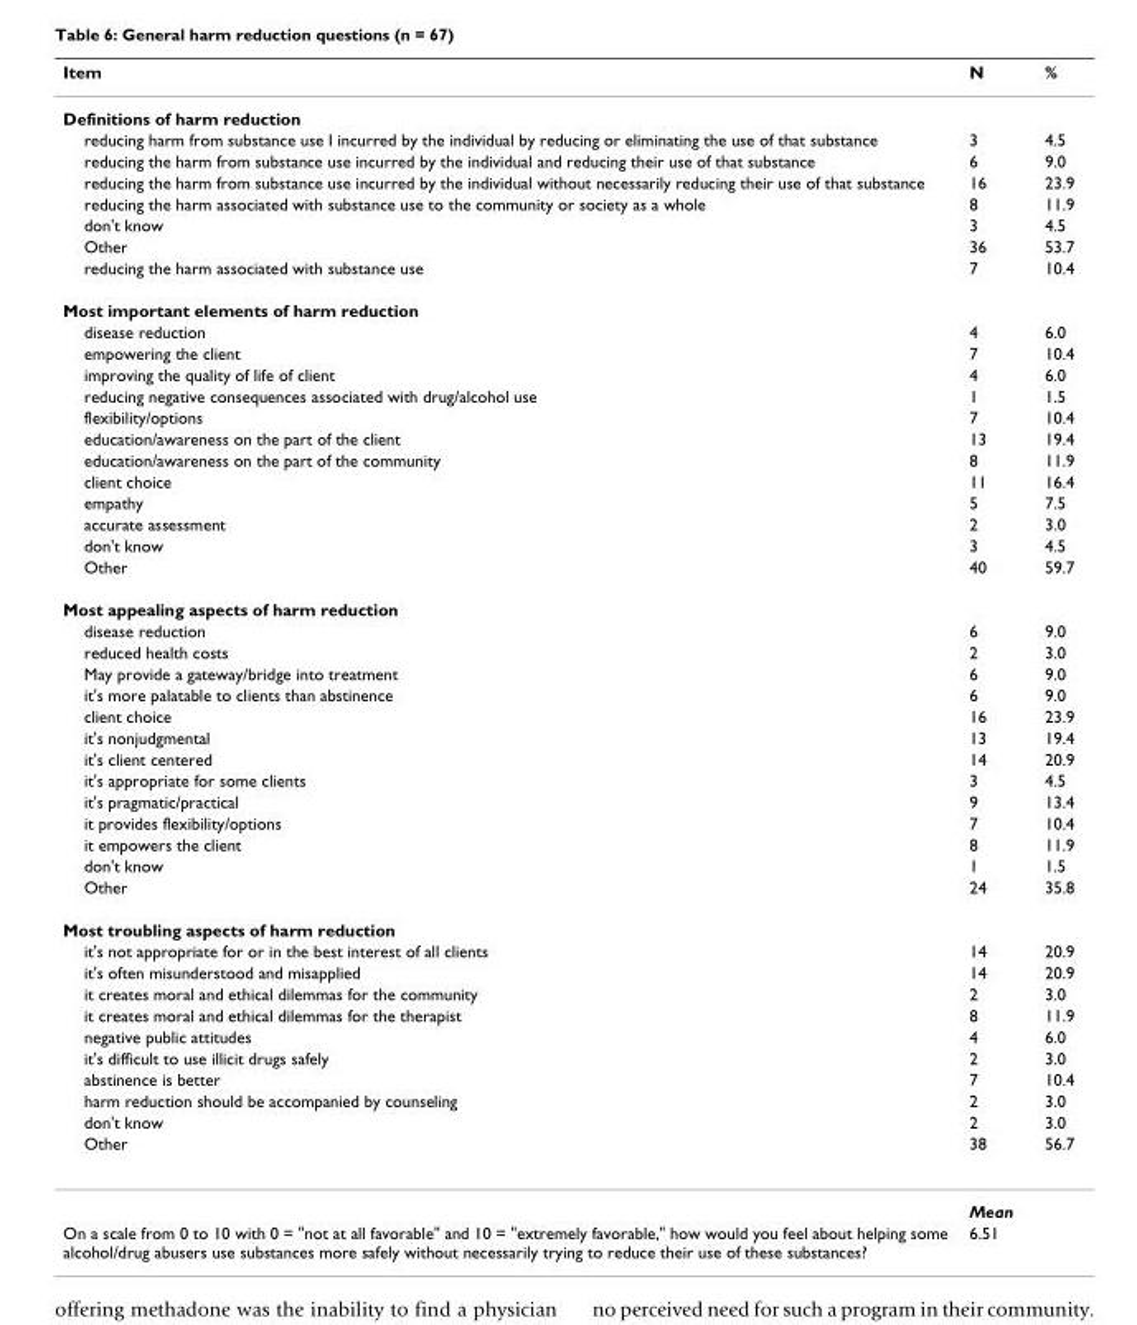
<table><thead><tr><td>Item</td><td>N</td><td>%</td></tr></thead><tbody><tr><td colspan="3">Definitions of harm reduction</td></tr><tr><td>reducing harm from substance use I incurred by the individual by reducing or eliminating the use of that substance</td><td>3</td><td>4.5</td></tr><tr><td>reducing the harm from substance use incurred by the individual and reducing their use of that substance</td><td>6</td><td>9.0</td></tr><tr><td>reducing the harm from substance use incurred by the individual without necessarily reducing their use of that substance</td><td>16</td><td>23.9</td></tr><tr><td>reducing the harm associated with substance use to the community or society as a whole</td><td>8</td><td>11.9</td></tr><tr><td>don&#x27;t know</td><td>3</td><td>4.5</td></tr><tr><td>Other</td><td>36</td><td>53.7</td></tr><tr><td>reducing the harm associated with substance use</td><td>7</td><td>10.4</td></tr><tr><td colspan="3">Most important elements of harm reduction</td></tr><tr><td>disease reduction</td><td>4</td><td>6.0</td></tr><tr><td>empowering the client</td><td>7</td><td>10.4</td></tr><tr><td>improving the quality of life of client</td><td>4</td><td>6.0</td></tr><tr><td>reducing negative consequences associated with drug/alcohol use</td><td>1</td><td>1.5</td></tr><tr><td>flexibility/options</td><td>7</td><td>10.4</td></tr><tr><td>education/awareness on the part of the client</td><td>13</td><td>19.4</td></tr><tr><td>education/awareness on the part of the community</td><td>8</td><td>11.9</td></tr><tr><td>client choice</td><td>11</td><td>16.4</td></tr><tr><td>empathy</td><td>5</td><td>7.5</td></tr><tr><td>accurate assessment</td><td>2</td><td>3.0</td></tr><tr><td>don&#x27;t know</td><td>3</td><td>4.5</td></tr><tr><td>Other</td><td>40</td><td>59.7</td></tr><tr><td colspan="3">Most appealing aspects of harm reduction</td></tr><tr><td>disease reduction</td><td>6</td><td>9.0</td></tr><tr><td>reduced health costs</td><td>2</td><td>3.0</td></tr><tr><td>May provide a gateway/bridge into treatment</td><td>6</td><td>9.0</td></tr><tr><td>it&#x27;s more palatable to clients than abstinence</td><td>6</td><td>9.0</td></tr><tr><td>client choice</td><td>16</td><td>23.9</td></tr><tr><td>it&#x27;s nonjudgmental</td><td>13</td><td>19.4</td></tr><tr><td>it&#x27;s client centered</td><td>14</td><td>20.9</td></tr><tr><td>it&#x27;s appropriate for some clients</td><td>3</td><td>4.5</td></tr><tr><td>it&#x27;s pragmatic/practical</td><td>9</td><td>13.4</td></tr><tr><td>it provides flexibility/options</td><td>7</td><td>10.4</td></tr><tr><td>it empowers the client</td><td>8</td><td>11.9</td></tr><tr><td>don&#x27;t know</td><td>1</td><td>1.5</td></tr><tr><td>Other</td><td>24</td><td>35.8</td></tr><tr><td colspan="3">Most troubling aspects of harm reduction</td></tr><tr><td>it&#x27;s not appropriate for or in the best interest of all clients</td><td>14</td><td>20.9</td></tr><tr><td>it&#x27;s often misunderstood and misapplied</td><td>14</td><td>20.9</td></tr><tr><td>it creates moral and ethical dilemmas for the community</td><td>2</td><td>3.0</td></tr><tr><td>it creates moral and ethical dilemmas for the therapist</td><td>8</td><td>11.9</td></tr><tr><td>negative public attitudes</td><td>4</td><td>6.0</td></tr><tr><td>it&#x27;s difficult to use illicit drugs safely</td><td>2</td><td>3.0</td></tr><tr><td>abstinence is better</td><td>7</td><td>10.4</td></tr><tr><td>harm reduction should be accompanied by counseling</td><td>2</td><td>3.0</td></tr><tr><td>don&#x27;t know</td><td>2</td><td>3.0</td></tr><tr><td rowspan="2">Other</td><td>38</td><td>56.7</td></tr><tr><td>Mean</td><td></td></tr><tr><td>On a scale from 0 to 10 with 0 = &quot;not at all favorable&quot; and 10 = &quot;extremely favorable,&quot; how would you feel about helping some alcohol/drug abusers use substances more safely without necessarily trying to reduce their use of these substances?</td><td>6.51</td><td></td></tr></tbody></table>